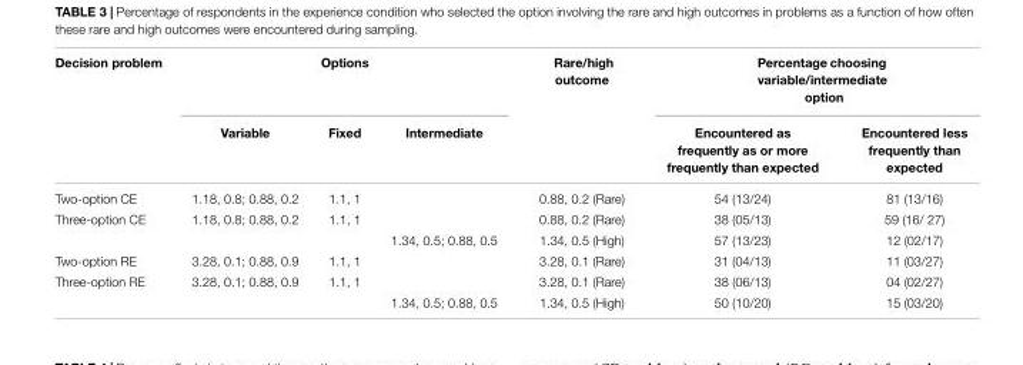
<table><thead><tr><td rowspan="2">Decision problem</td><td colspan="3">Options</td><td rowspan="2">Rare/high outcome</td><td colspan="2">Percentage choosing variable/intermediate option</td></tr><tr><td>Variable</td><td>Fixed</td><td>Intermediate</td><td>Encountered as frequently as or more frequently than expected</td><td>Encountered less frequently than expected</td></tr></thead><tbody><tr><td>Two-option CE</td><td>1.18, 0.8; 0.88, 0.2</td><td>1.1, 1</td><td></td><td>0.88, 0.2 (Rare)</td><td>54 (13/24)</td><td>81 (13/16)</td></tr><tr><td rowspan="2">Three-option CE</td><td>1.18, 0.8; 0.88, 0.2</td><td>1.1, 1</td><td></td><td>0.88, 0.2 (Rare)</td><td>38 (05/13)</td><td>59 (16/ 27)</td></tr><tr><td></td><td></td><td>1.34, 0.5; 0.88, 0.5</td><td>1.34, 0.5 (High)</td><td>57 (13/23)</td><td>12 (02/17)</td></tr><tr><td>Two-option RE</td><td>3.28, 0.1; 0.88, 0.9</td><td>1.1, 1</td><td></td><td>3.28, 0.1 (Rare)</td><td>31 (04/13)</td><td>11 (03/27)</td></tr><tr><td rowspan="2">Three-option RE</td><td>3.28, 0.1; 0.88, 0.9</td><td>1.1, 1</td><td></td><td>3.28, 0.1 (Rare)</td><td>38 (06/13)</td><td>04 (02/27)</td></tr><tr><td></td><td></td><td>1.34, 0.5; 0.88, 0.5</td><td>1.34, 0.5 (High)</td><td>50 (10/20)</td><td>15 (03/20)</td></tr></tbody></table>